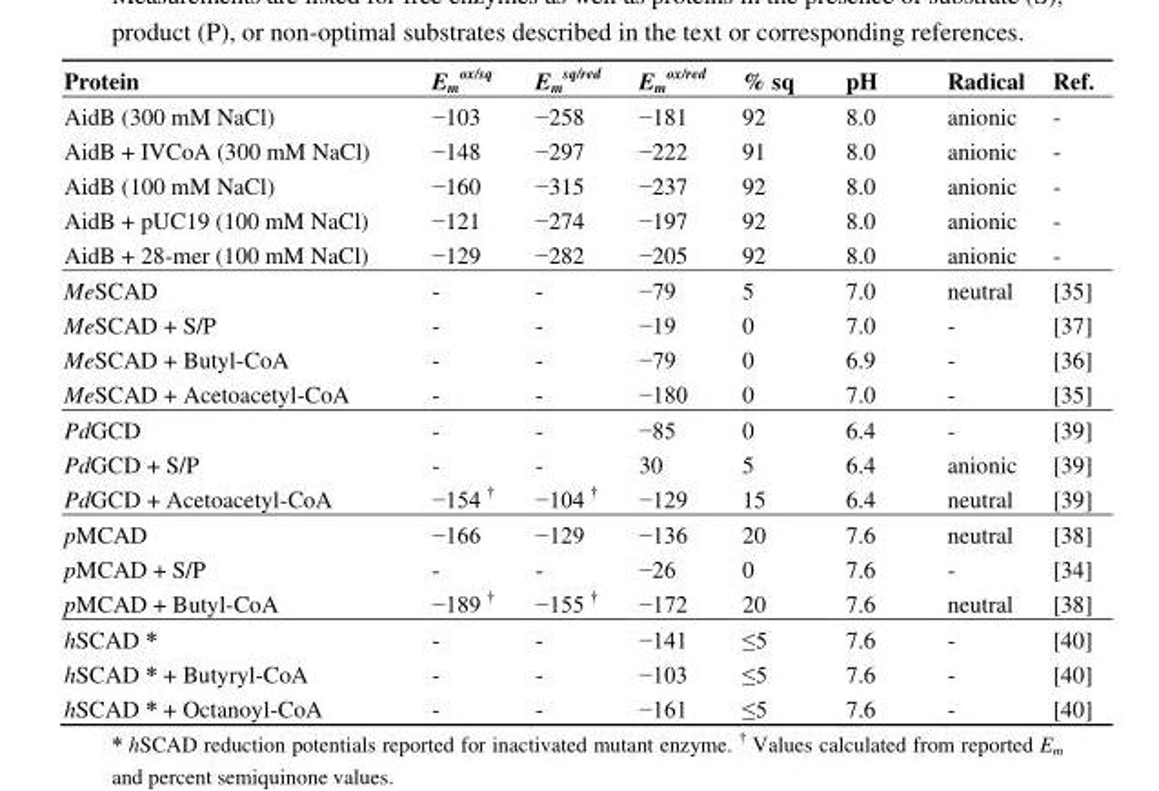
<table><thead><tr><td>Protein</td><td>E<sub>m</sub> <sup>ox/sq</sup></td><td>E<sub>m</sub> <sup>sq/red</sup></td><td>E<sub>m</sub> <sup>ox/red</sup></td><td>% sq</td><td>pH</td><td>Radical</td><td>Ref.</td></tr></thead><tbody><tr><td>AidB (300 mM NaCl)</td><td>−103</td><td>−258</td><td>−181</td><td>92</td><td>8.0</td><td>anionic</td><td>-</td></tr><tr><td>AidB + IVCoA (300 mM NaCl)</td><td>−148</td><td>−297</td><td>−222</td><td>91</td><td>8.0</td><td>anionic</td><td>-</td></tr><tr><td>AidB (100 mM NaCl)</td><td>−160</td><td>−315</td><td>−237</td><td>92</td><td>8.0</td><td>anionic</td><td>-</td></tr><tr><td>AidB + pUC19 (100 mM NaCl)</td><td>−121</td><td>−274</td><td>−197</td><td>92</td><td>8.0</td><td>anionic</td><td>-</td></tr><tr><td>AidB + 28-mer (100 mM NaCl)</td><td>−129</td><td>−282</td><td>−205</td><td>92</td><td>8.0</td><td>anionic</td><td>-</td></tr><tr><td>MeSCAD</td><td>-</td><td>-</td><td>−79</td><td>5</td><td>7.0</td><td>neutral</td><td>[35]</td></tr><tr><td>MeSCAD + S/P</td><td>-</td><td>-</td><td>−19</td><td>0</td><td>7.0</td><td>-</td><td>[37]</td></tr><tr><td>MeSCAD + Butyl-CoA</td><td>-</td><td>-</td><td>−79</td><td>0</td><td>6.9</td><td>-</td><td>[36]</td></tr><tr><td>MeSCAD + Acetoacetyl-CoA</td><td>-</td><td>-</td><td>−180</td><td>0</td><td>7.0</td><td>-</td><td>[35]</td></tr><tr><td>PdGCD</td><td>-</td><td>-</td><td>−85</td><td>0</td><td>6.4</td><td>-</td><td>[39]</td></tr><tr><td>PdGCD + S/P</td><td>-</td><td>-</td><td>30</td><td>5</td><td>6.4</td><td>anionic</td><td>[39]</td></tr><tr><td>PdGCD + Acetoacetyl-CoA</td><td>−154 †</td><td>−104 †</td><td>−129</td><td>15</td><td>6.4</td><td>neutral</td><td>[39]</td></tr><tr><td>pMCAD</td><td>−166</td><td>−129</td><td>−136</td><td>20</td><td>7.6</td><td>neutral</td><td>[38]</td></tr><tr><td>pMCAD + S/P</td><td>-</td><td>-</td><td>−26</td><td>0</td><td>7.6</td><td>-</td><td>[34]</td></tr><tr><td>pMCAD + Butyl-CoA</td><td>−189 †</td><td>−155 †</td><td>−172</td><td>20</td><td>7.6</td><td>neutral</td><td>[38]</td></tr><tr><td>hSCAD *</td><td>-</td><td>-</td><td>−141</td><td>≤5</td><td>7.6</td><td>-</td><td>[40]</td></tr><tr><td>hSCAD * + Butyryl-CoA</td><td>-</td><td>-</td><td>−103</td><td>≤5</td><td>7.6</td><td>-</td><td>[40]</td></tr><tr><td>hSCAD * + Octanoyl-CoA</td><td>-</td><td>-</td><td>−161</td><td>≤5</td><td>7.6</td><td>-</td><td>[40]</td></tr></tbody></table>